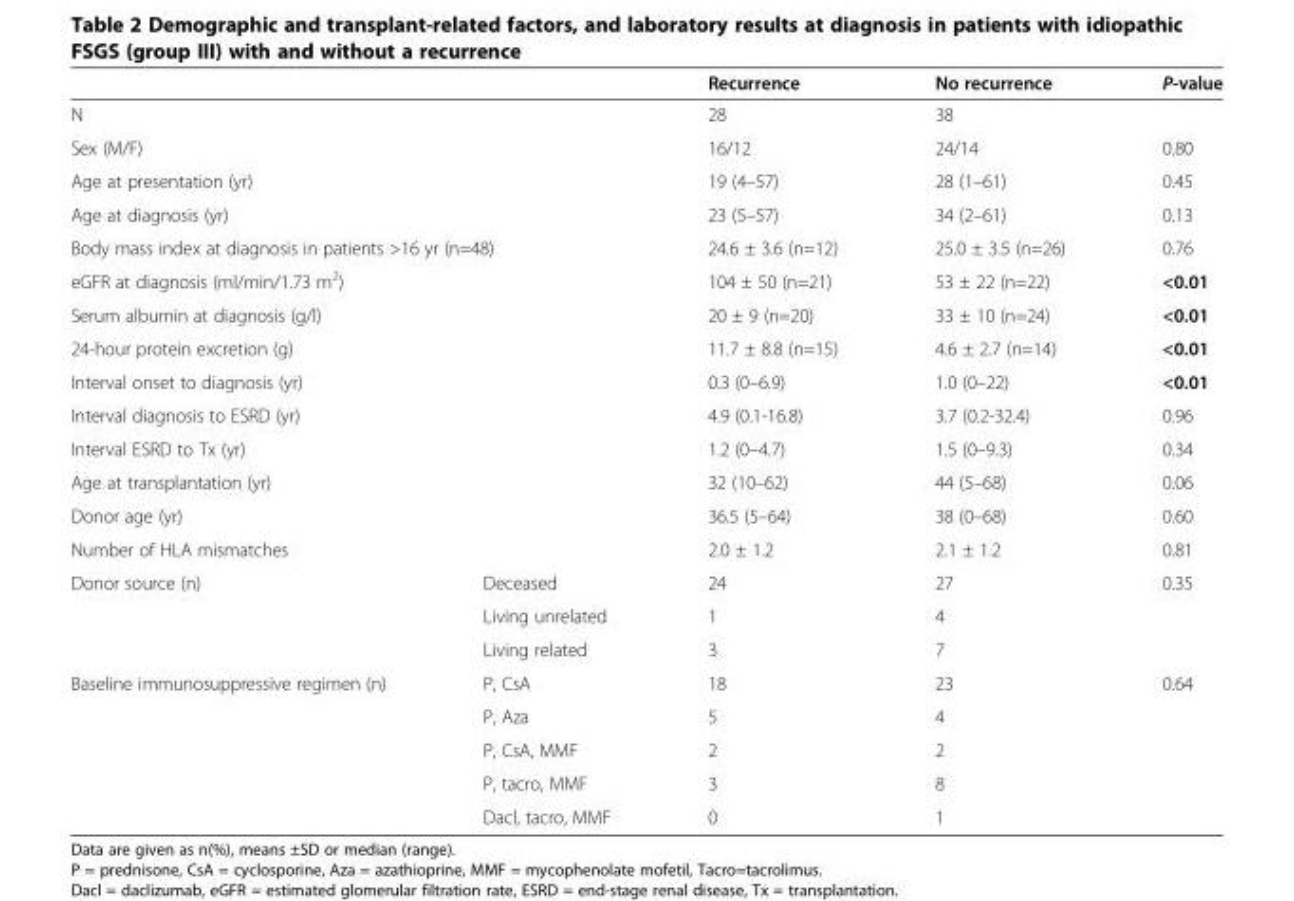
<table><thead><tr><td></td><td></td><td>Recurrence</td><td>No recurrence</td><td>P-value</td></tr></thead><tbody><tr><td colspan="2">N</td><td>28</td><td>38</td><td></td></tr><tr><td colspan="2">Sex (M/F)</td><td>16/12</td><td>24/14</td><td>0.80</td></tr><tr><td colspan="2">Age at presentation (yr)</td><td>19 (4–57)</td><td>28 (1–61)</td><td>0.45</td></tr><tr><td colspan="2">Age at diagnosis (yr)</td><td>23 (5–57)</td><td>34 (2–61)</td><td>0.13</td></tr><tr><td colspan="2">Body mass index at diagnosis in patients &gt;16 yr (n=48)</td><td>24.6 ± 3.6 (n=12)</td><td>25.0 ± 3.5 (n=26)</td><td>0.76</td></tr><tr><td colspan="2">eGFR at diagnosis (ml/min/1.73 m<sup>2</sup>)</td><td>104 ± 50 (n=21)</td><td>53 ± 22 (n=22)</td><td>&lt;0.01</td></tr><tr><td colspan="2">Serum albumin at diagnosis (g/l)</td><td>20 ± 9 (n=20)</td><td>33 ± 10 (n=24)</td><td>&lt;0.01</td></tr><tr><td colspan="2">24-hour protein excretion (g)</td><td>11.7 ± 8.8 (n=15)</td><td>4.6 ± 2.7 (n=14)</td><td>&lt;0.01</td></tr><tr><td colspan="2">Interval onset to diagnosis (yr)</td><td>0.3 (0–6.9)</td><td>1.0 (0–22)</td><td>&lt;0.01</td></tr><tr><td colspan="2">Interval diagnosis to ESRD (yr)</td><td>4.9 (0.1-16.8)</td><td>3.7 (0.2-32.4)</td><td>0.96</td></tr><tr><td colspan="2">Interval ESRD to Tx (yr)</td><td>1.2 (0–4.7)</td><td>1.5 (0–9.3)</td><td>0.34</td></tr><tr><td colspan="2">Age at transplantation (yr)</td><td>32 (10–62)</td><td>44 (5–68)</td><td>0.06</td></tr><tr><td colspan="2">Donor age (yr)</td><td>36.5 (5–64)</td><td>38 (0–68)</td><td>0.60</td></tr><tr><td colspan="2">Number of HLA mismatches</td><td>2.0 ± 1.2</td><td>2.1 ± 1.2</td><td>0.81</td></tr><tr><td rowspan="3">Donor source (n)</td><td>Deceased</td><td>24</td><td>27</td><td rowspan="3">0.35</td></tr><tr><td>Living unrelated</td><td>1</td><td>4</td></tr><tr><td>Living related</td><td>3</td><td>7</td></tr><tr><td rowspan="5">Baseline immunosuppressive regimen (n)</td><td>P, CsA</td><td>18</td><td>23</td><td rowspan="5">0.64</td></tr><tr><td>P, Aza</td><td>5</td><td>4</td></tr><tr><td>P, CsA, MMF</td><td>2</td><td>2</td></tr><tr><td>P, tacro, MMF</td><td>3</td><td>8</td></tr><tr><td>Dacl, tacro, MMF</td><td>0</td><td>1</td></tr></tbody></table>